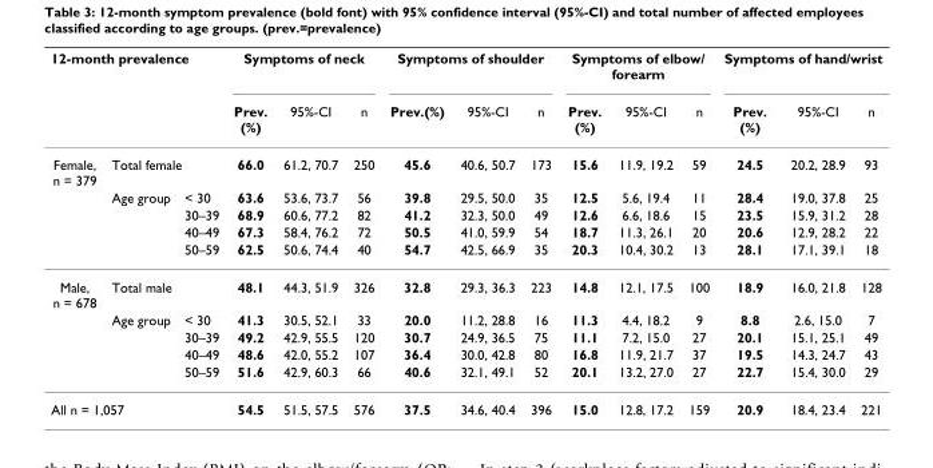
<table><thead><tr><td colspan="3">12-month prevalence</td><td colspan="3">Symptoms of neck</td><td colspan="3">Symptoms of shoulder</td><td colspan="3">Symptoms of elbow/ forearm</td><td colspan="3">Symptoms of hand/wrist</td></tr><tr><td></td><td></td><td></td><td>Prev. (%)</td><td>95%-CI</td><td>n</td><td>Prev.(%)</td><td>95%-CI</td><td>n</td><td>Prev. (%)</td><td>95%-CI</td><td>n</td><td>Prev. (%)</td><td>95%-CI</td><td>n</td></tr></thead><tbody><tr><td rowspan="5">Female, n = 379</td><td colspan="2">Total female</td><td>66.0</td><td>61.2, 70.7</td><td>250</td><td>45.6</td><td>40.6, 50.7</td><td>173</td><td>15.6</td><td>11.9, 19.2</td><td>59</td><td>24.5</td><td>20.2, 28.9</td><td>93</td></tr><tr><td>Age group</td><td>&lt; 30</td><td>63.6</td><td>53.6, 73.7</td><td>56</td><td>39.8</td><td>29.5, 50.0</td><td>35</td><td>12.5</td><td>5.6, 19.4</td><td>11</td><td>28.4</td><td>19.0, 37.8</td><td>25</td></tr><tr><td></td><td>30–39</td><td>68.9</td><td>60.6, 77.2</td><td>82</td><td>41.2</td><td>32.3, 50.0</td><td>49</td><td>12.6</td><td>6.6, 18.6</td><td>15</td><td>23.5</td><td>15.9, 31.2</td><td>28</td></tr><tr><td></td><td>40–49</td><td>67.3</td><td>58.4, 76.2</td><td>72</td><td>50.5</td><td>41.0, 59.9</td><td>54</td><td>18.7</td><td>11.3, 26.1</td><td>20</td><td>20.6</td><td>12.9, 28.2</td><td>22</td></tr><tr><td></td><td>50–59</td><td>62.5</td><td>50.6, 74.4</td><td>40</td><td>54.7</td><td>42.5, 66.9</td><td>35</td><td>20.3</td><td>10.4, 30.2</td><td>13</td><td>28.1</td><td>17.1, 39.1</td><td>18</td></tr><tr><td rowspan="5">Male, n = 678</td><td colspan="2">Total male</td><td>48.1</td><td>44.3, 51.9</td><td>326</td><td>32.8</td><td>29.3, 36.3</td><td>223</td><td>14.8</td><td>12.1, 17.5</td><td>100</td><td>18.9</td><td>16.0, 21.8</td><td>128</td></tr><tr><td>Age group</td><td>&lt; 30</td><td>41.3</td><td>30.5, 52.1</td><td>33</td><td>20.0</td><td>11.2, 28.8</td><td>16</td><td>11.3</td><td>4.4, 18.2</td><td>9</td><td>8.8</td><td>2.6, 15.0</td><td>7</td></tr><tr><td></td><td>30–39</td><td>49.2</td><td>42.9, 55.5</td><td>120</td><td>30.7</td><td>24.9, 36.5</td><td>75</td><td>11.1</td><td>7.2, 15.0</td><td>27</td><td>20.1</td><td>15.1, 25.1</td><td>49</td></tr><tr><td></td><td>40–49</td><td>48.6</td><td>42.0, 55.2</td><td>107</td><td>36.4</td><td>30.0, 42.8</td><td>80</td><td>16.8</td><td>11.9, 21.7</td><td>37</td><td>19.5</td><td>14.3, 24.7</td><td>43</td></tr><tr><td></td><td>50–59</td><td>51.6</td><td>42.9, 60.3</td><td>66</td><td>40.6</td><td>32.1, 49.1</td><td>52</td><td>20.1</td><td>13.2, 27.0</td><td>27</td><td>22.7</td><td>15.4, 30.0</td><td>29</td></tr><tr><td colspan="3">All n = 1,057</td><td>54.5</td><td>51.5, 57.5</td><td>576</td><td>37.5</td><td>34.6, 40.4</td><td>396</td><td>15.0</td><td>12.8, 17.2</td><td>159</td><td>20.9</td><td>18.4, 23.4</td><td>221</td></tr></tbody></table>